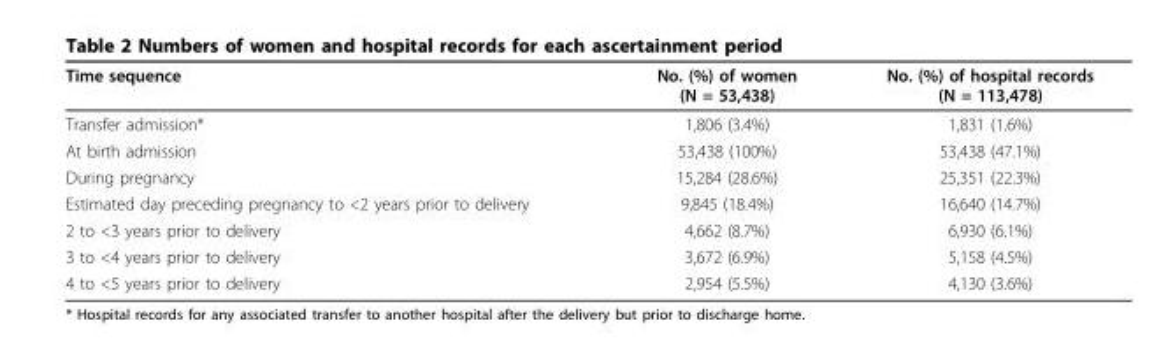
<table><thead><tr><td>Time sequence</td><td>No. (%) of women (N = 53,438)</td><td>No. (%) of hospital records (N = 113,478)</td></tr></thead><tbody><tr><td>Transfer admission*</td><td>1,806 (3.4%)</td><td>1,831 (1.6%)</td></tr><tr><td>At birth admission</td><td>53,438 (100%)</td><td>53,438 (47.1%)</td></tr><tr><td>During pregnancy</td><td>15,284 (28.6%)</td><td>25,351 (22.3%)</td></tr><tr><td>Estimated day preceding pregnancy to &lt;2 years prior to delivery</td><td>9,845 (18.4%)</td><td>16,640 (14.7%)</td></tr><tr><td>2 to &lt;3 years prior to delivery</td><td>4,662 (8.7%)</td><td>6,930 (6.1%)</td></tr><tr><td>3 to &lt;4 years prior to delivery</td><td>3,672 (6.9%)</td><td>5,158 (4.5%)</td></tr><tr><td>4 to &lt;5 years prior to delivery</td><td>2,954 (5.5%)</td><td>4,130 (3.6%)</td></tr></tbody></table>